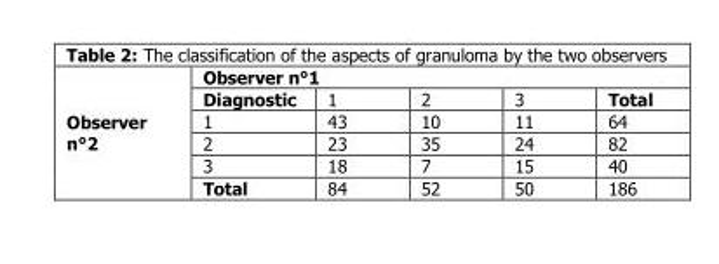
<table><tbody><tr><td rowspan="6">Observer n°2</td><td colspan="5">Observer n°1</td></tr><tr><td>Diagnostic</td><td>1</td><td>2</td><td>3</td><td>Total</td></tr><tr><td>1</td><td>43</td><td>10</td><td>11</td><td>64</td></tr><tr><td>2</td><td>23</td><td>35</td><td>24</td><td>82</td></tr><tr><td>3</td><td>18</td><td>7</td><td>15</td><td>40</td></tr><tr><td>Total</td><td>84</td><td>52</td><td>50</td><td>186</td></tr></tbody></table>